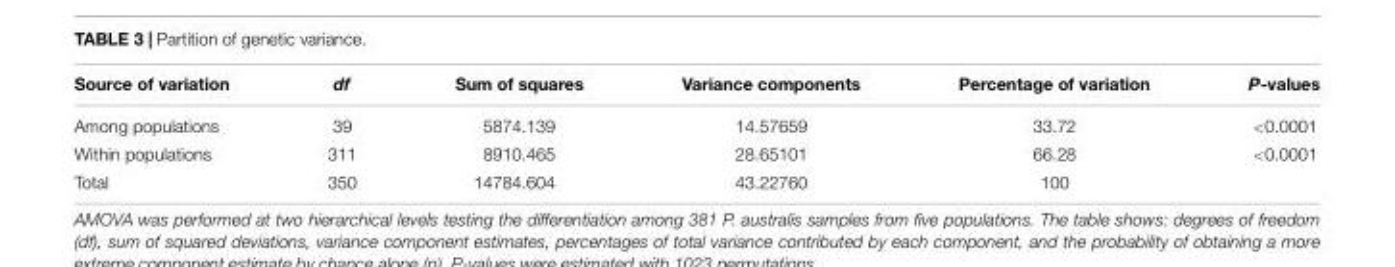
<table><thead><tr><td>Source of variation</td><td>df</td><td>Sum of squares</td><td>Variance components</td><td>Percentage of variation</td><td>P-values</td></tr></thead><tbody><tr><td>Among populations</td><td>39</td><td>5874.139</td><td>14.57659</td><td>33.72</td><td>&lt;0.0001</td></tr><tr><td>Within populations</td><td>311</td><td>8910.465</td><td>28.65101</td><td>66.28</td><td>&lt;0.0001</td></tr><tr><td>Total</td><td>350</td><td>14784.604</td><td>43.22760</td><td>100</td><td></td></tr></tbody></table>